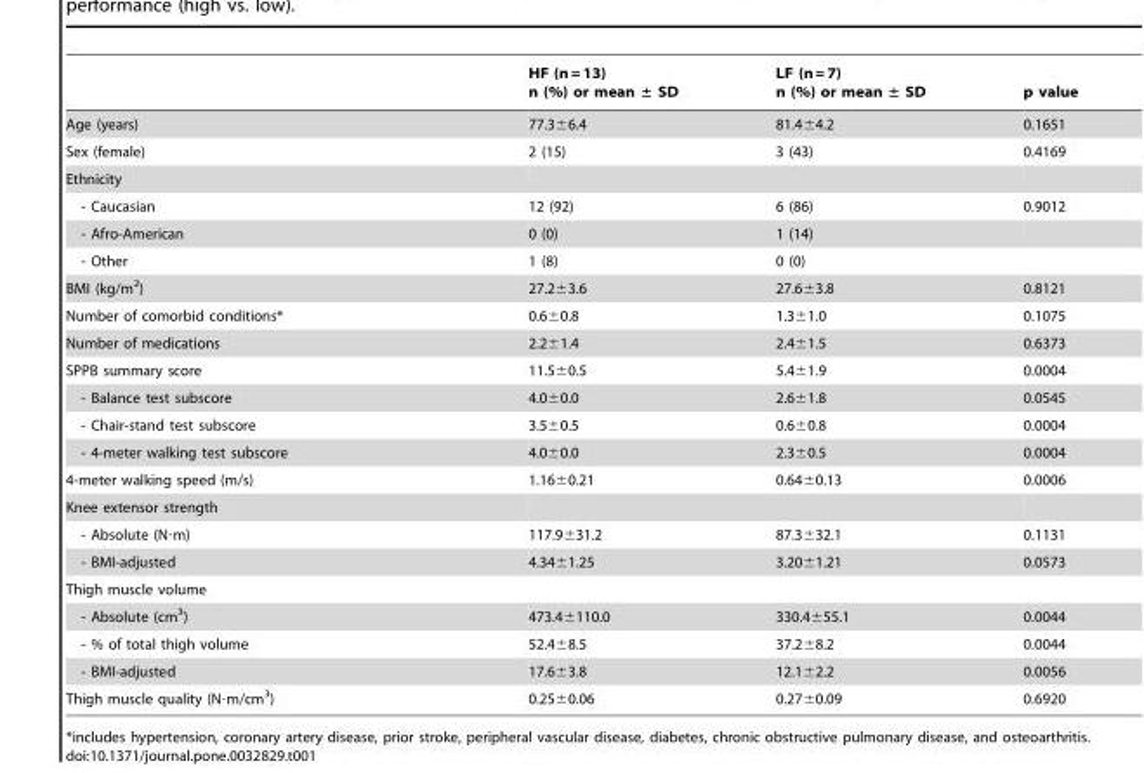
<table><thead><tr><td></td><td>HF (n = 13) n (%) or mean ± SD</td><td>LF (n = 7) n (%) or mean ± SD</td><td>p value</td></tr></thead><tbody><tr><td>Age (years)</td><td>77.3±6.4</td><td>81.4±4.2</td><td>0.1651</td></tr><tr><td>Sex (female)</td><td>2 (15)</td><td>3 (43)</td><td>0.4169</td></tr><tr><td colspan="4">Ethnicity</td></tr><tr><td>- Caucasian</td><td>12 (92)</td><td>6 (86)</td><td>0.9012</td></tr><tr><td>- Afro-American</td><td>0 (0)</td><td>1 (14)</td><td></td></tr><tr><td>- Other</td><td>1 (8)</td><td>0 (0)</td><td></td></tr><tr><td>BMI (kg/m<sup>2</sup>)</td><td>27.2±3.6</td><td>27.6±3.8</td><td>0.8121</td></tr><tr><td>Number of comorbid conditions*</td><td>0.6±0.8</td><td>1.3±1.0</td><td>0.1075</td></tr><tr><td>Number of medications</td><td>2.2±1.4</td><td>2.4±1.5</td><td>0.6373</td></tr><tr><td>SPPB summary score</td><td>11.5±0.5</td><td>5.4±1.9</td><td>0.0004</td></tr><tr><td>- Balance test subscore</td><td>4.0±0.0</td><td>2.6±1.8</td><td>0.0545</td></tr><tr><td>- Chair-stand test subscore</td><td>3.5±0.5</td><td>0.6±0.8</td><td>0.0004</td></tr><tr><td>- 4-meter walking test subscore</td><td>4.0±0.0</td><td>2.3±0.5</td><td>0.0004</td></tr><tr><td>4-meter walking speed (m/s)</td><td>1.16±0.21</td><td>0.64±0.13</td><td>0.0006</td></tr><tr><td colspan="4">Knee extensor strength</td></tr><tr><td>- Absolute (N⋅m)</td><td>117.9±31.2</td><td>87.3±32.1</td><td>0.1131</td></tr><tr><td>- BMI-adjusted</td><td>4.34±1.25</td><td>3.20±1.21</td><td>0.0573</td></tr><tr><td colspan="4">Thigh muscle volume</td></tr><tr><td>- Absolute (cm<sup>3</sup>)</td><td>473.4±110.0</td><td>330.4±55.1</td><td>0.0044</td></tr><tr><td>- % of total thigh volume</td><td>52.4±8.5</td><td>37.2±8.2</td><td>0.0044</td></tr><tr><td>- BMI-adjusted</td><td>17.6±3.8</td><td>12.1±2.2</td><td>0.0056</td></tr><tr><td>Thigh muscle quality (N⋅m/cm<sup>3</sup>)</td><td>0.25±0.06</td><td>0.27±0.09</td><td>0.6920</td></tr></tbody></table>